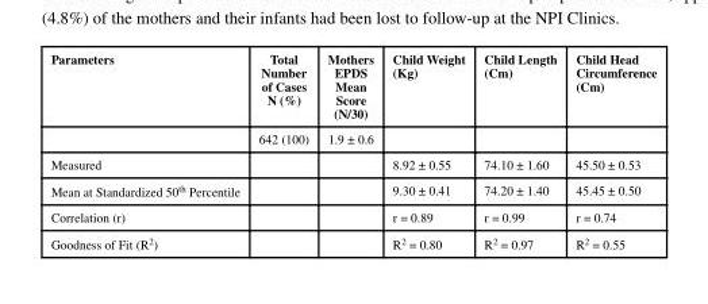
<table><thead><tr><td>Parameters</td><td>Total Number of Cases N (%)</td><td>Mothers EPDS Mean Score (N/30)</td><td>Child Weight (Kg)</td><td>Child Length (Cm)</td><td>Child Head Circumference (Cm)</td></tr></thead><tbody><tr><td></td><td>642 (100)</td><td>1.9 ± 0.6</td><td></td><td></td><td></td></tr><tr><td>Measured</td><td></td><td></td><td>8.92 ± 0.55</td><td>74.10 ± 1.60</td><td>45.50 ± 0.53</td></tr><tr><td>Mean at Standardized 50<sup>th</sup> Percentile</td><td></td><td></td><td>9.30 ± 0.41</td><td>74.20 ± 1.40</td><td>45.45 ± 0.50</td></tr><tr><td>Correlation (r)</td><td></td><td></td><td>r = 0.89</td><td>r = 0.99</td><td>r = 0.74</td></tr><tr><td>Goodness of Fit (R<sup>2</sup>)</td><td></td><td></td><td>R<sup>2</sup> = 0.80</td><td>R<sup>2</sup> = 0.97</td><td>R<sup>2</sup> = 0.55</td></tr></tbody></table>